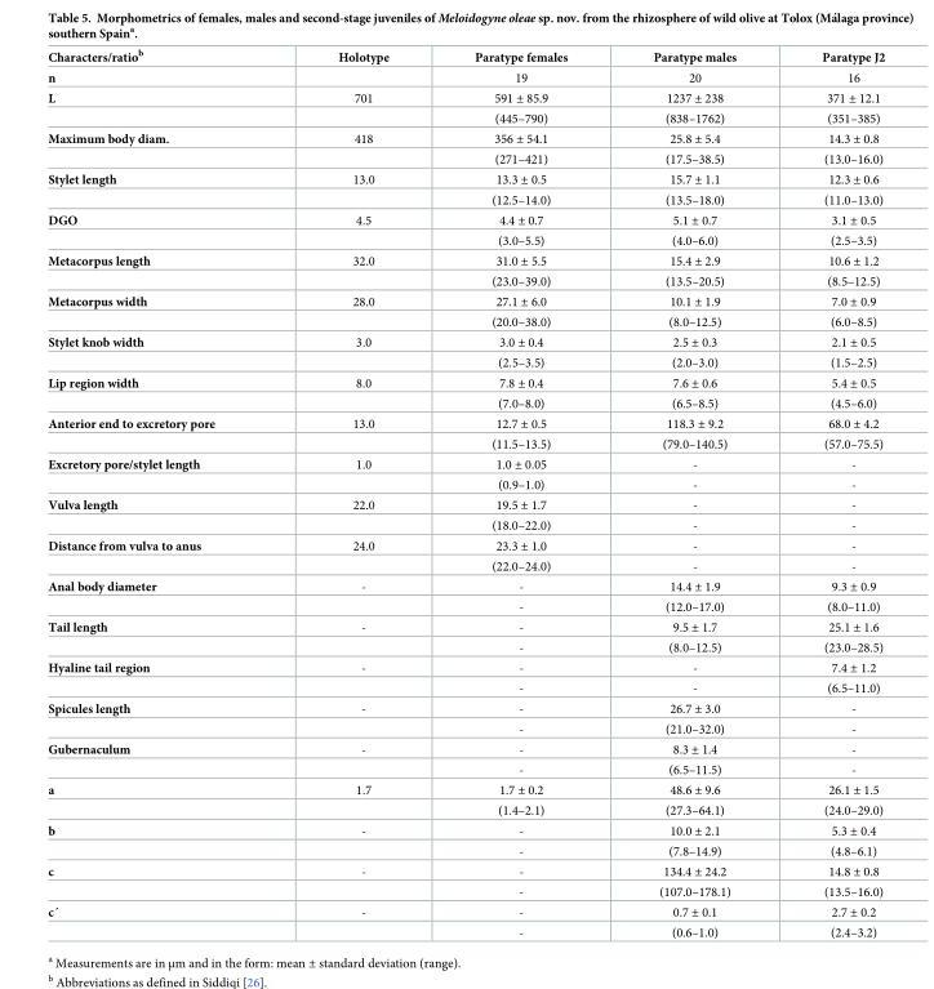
<table><thead><tr><td>Characters/ratio<sup>b</sup></td><td>Holotype</td><td>Paratype females</td><td>Paratype males</td><td>Paratype J2</td></tr></thead><tbody><tr><td>n</td><td></td><td>19</td><td>20</td><td>16</td></tr><tr><td rowspan="2">L</td><td>701</td><td>591 ± 85.9</td><td>1237 ± 238</td><td>371 ± 12.1</td></tr><tr><td></td><td>(445–790)</td><td>(838–1762)</td><td>(351–385)</td></tr><tr><td rowspan="2">Maximum body diam.</td><td>418</td><td>356 ± 54.1</td><td>25.8 ± 5.4</td><td>14.3 ± 0.8</td></tr><tr><td></td><td>(271–421)</td><td>(17.5–38.5)</td><td>(13.0–16.0)</td></tr><tr><td rowspan="2">Stylet length</td><td>13.0</td><td>13.3 ± 0.5</td><td>15.7 ± 1.1</td><td>12.3 ± 0.6</td></tr><tr><td></td><td>(12.5–14.0)</td><td>(13.5–18.0)</td><td>(11.0–13.0)</td></tr><tr><td rowspan="2">DGO</td><td>4.5</td><td>4.4 ± 0.7</td><td>5.1 ± 0.7</td><td>3.1 ± 0.5</td></tr><tr><td></td><td>(3.0–5.5)</td><td>(4.0–6.0)</td><td>(2.5–3.5)</td></tr><tr><td rowspan="2">Metacorpus length</td><td>32.0</td><td>31.0 ± 5.5</td><td>15.4 ± 2.9</td><td>10.6 ± 1.2</td></tr><tr><td></td><td>(23.0–39.0)</td><td>(13.5–20.5)</td><td>(8.5–12.5)</td></tr><tr><td rowspan="2">Metacorpus width</td><td>28.0</td><td>27.1 ± 6.0</td><td>10.1 ± 1.9</td><td>7.0 ± 0.9</td></tr><tr><td></td><td>(20.0–38.0)</td><td>(8.0–12.5)</td><td>(6.0–8.5)</td></tr><tr><td rowspan="2">Stylet knob width</td><td>3.0</td><td>3.0 ± 0.4</td><td>2.5 ± 0.3</td><td>2.1 ± 0.5</td></tr><tr><td></td><td>(2.5–3.5)</td><td>(2.0–3.0)</td><td>(1.5–2.5)</td></tr><tr><td rowspan="2">Lip region width</td><td>8.0</td><td>7.8 ± 0.4</td><td>7.6 ± 0.6</td><td>5.4 ± 0.5</td></tr><tr><td></td><td>(7.0–8.0)</td><td>(6.5–8.5)</td><td>(4.5–6.0)</td></tr><tr><td rowspan="2">Anterior end to excretory pore</td><td>13.0</td><td>12.7 ± 0.5</td><td>118.3 ± 9.2</td><td>68.0 ± 4.2</td></tr><tr><td></td><td>(11.5–13.5)</td><td>(79.0–140.5)</td><td>(57.0–75.5)</td></tr><tr><td rowspan="2">Excretory pore/stylet length</td><td>1.0</td><td>1.0 ± 0.05</td><td>-</td><td>-</td></tr><tr><td></td><td>(0.9–1.0)</td><td>-</td><td>-</td></tr><tr><td rowspan="2">Vulva length</td><td>22.0</td><td>19.5 ± 1.7</td><td>-</td><td>-</td></tr><tr><td></td><td>(18.0–22.0)</td><td>-</td><td>-</td></tr><tr><td rowspan="2">Distance from vulva to anus</td><td>24.0</td><td>23.3 ± 1.0</td><td>-</td><td>-</td></tr><tr><td></td><td>(22.0–24.0)</td><td>-</td><td>-</td></tr><tr><td rowspan="2">Anal body diameter</td><td>-</td><td>-</td><td>14.4 ± 1.9</td><td>9.3 ± 0.9</td></tr><tr><td></td><td>-</td><td>(12.0–17.0)</td><td>(8.0–11.0)</td></tr><tr><td rowspan="2">Tail length</td><td>-</td><td>-</td><td>9.5 ± 1.7</td><td>25.1 ± 1.6</td></tr><tr><td></td><td>-</td><td>(8.0–12.5)</td><td>(23.0–28.5)</td></tr><tr><td rowspan="2">Hyaline tail region</td><td>-</td><td>-</td><td>-</td><td>7.4 ± 1.2</td></tr><tr><td></td><td>-</td><td>-</td><td>(6.5–11.0)</td></tr><tr><td rowspan="2">Spicules length</td><td>-</td><td>-</td><td>26.7 ± 3.0</td><td>-</td></tr><tr><td></td><td>-</td><td>(21.0–32.0)</td><td>-</td></tr><tr><td rowspan="2">Gubernaculum</td><td>-</td><td>-</td><td>8.3 ± 1.4</td><td>-</td></tr><tr><td></td><td>-</td><td>(6.5–11.5)</td><td>-</td></tr><tr><td rowspan="2">a</td><td>1.7</td><td>1.7 ± 0.2</td><td>48.6 ± 9.6</td><td>26.1 ± 1.5</td></tr><tr><td></td><td>(1.4–2.1)</td><td>(27.3–64.1)</td><td>(24.0–29.0)</td></tr><tr><td rowspan="2">b</td><td>-</td><td>-</td><td>10.0 ± 2.1</td><td>5.3 ± 0.4</td></tr><tr><td></td><td>-</td><td>(7.8–14.9)</td><td>(4.8–6.1)</td></tr><tr><td rowspan="2">c</td><td>-</td><td>-</td><td>134.4 ± 24.2</td><td>14.8 ± 0.8</td></tr><tr><td></td><td>-</td><td>(107.0–178.1)</td><td>(13.5–16.0)</td></tr><tr><td rowspan="2">c´</td><td>-</td><td>-</td><td>0.7 ± 0.1</td><td>2.7 ± 0.2</td></tr><tr><td></td><td>-</td><td>(0.6–1.0)</td><td>(2.4–3.2)</td></tr></tbody></table>